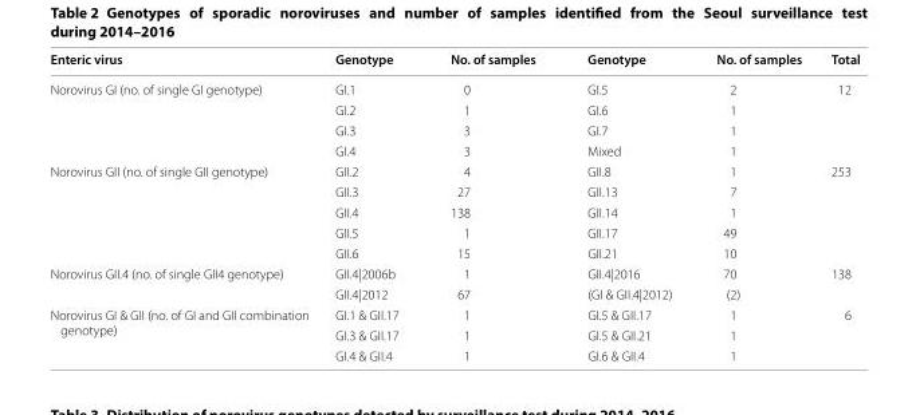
<table><thead><tr><td>Enteric virus</td><td>Genotype</td><td>No. of samples</td><td>Genotype</td><td>No. of samples</td><td>Total</td></tr></thead><tbody><tr><td rowspan="4">Norovirus GI (no. of single GI genotype)</td><td>GI.1</td><td>0</td><td>GI.5</td><td>2</td><td rowspan="4">12</td></tr><tr><td>GI.2</td><td>1</td><td>GI.6</td><td>1</td></tr><tr><td>GI.3</td><td>3</td><td>GI.7</td><td>1</td></tr><tr><td>GI.4</td><td>3</td><td>Mixed</td><td>1</td></tr><tr><td rowspan="5">Norovirus GII (no. of single GII genotype)</td><td>GII.2</td><td>4</td><td>GII.8</td><td>1</td><td rowspan="5">253</td></tr><tr><td>GII.3</td><td>27</td><td>GII.13</td><td>7</td></tr><tr><td>GII.4</td><td>138</td><td>GII.14</td><td>1</td></tr><tr><td>GII.5</td><td>1</td><td>GII.17</td><td>49</td></tr><tr><td>GII.6</td><td>15</td><td>GII.21</td><td>10</td></tr><tr><td rowspan="2">Norovirus GII.4 (no. of single GII4 genotype)</td><td>GII.4|2006b</td><td>1</td><td>GII.4|2016</td><td>70</td><td rowspan="2">138</td></tr><tr><td>GII.4|2012</td><td>67</td><td>(GI &amp; GII.4|2012)</td><td>(2)</td></tr><tr><td rowspan="3">Norovirus GI &amp; GII (no. of GI and GII combination genotype)</td><td>GI.1 &amp; GII.17</td><td>1</td><td>GI.5 &amp; GII.17</td><td>1</td><td rowspan="3">6</td></tr><tr><td>GI.3 &amp; GII.17</td><td>1</td><td>GI.5 &amp; GII.21</td><td>1</td></tr><tr><td>GI.4 &amp; GII.4</td><td>1</td><td>GI.6 &amp; GII.4</td><td>1</td></tr></tbody></table>